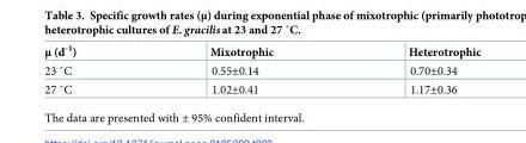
<table><thead><tr><td>μ (d<sup>-1</sup>)</td><td>Mixotrophic</td><td>Heterotrophic</td></tr></thead><tbody><tr><td>23 ˚C</td><td>0.55±0.14</td><td>0.70±0.34</td></tr><tr><td>27 ˚C</td><td>1.02±0.41</td><td>1.17±0.36</td></tr></tbody></table>